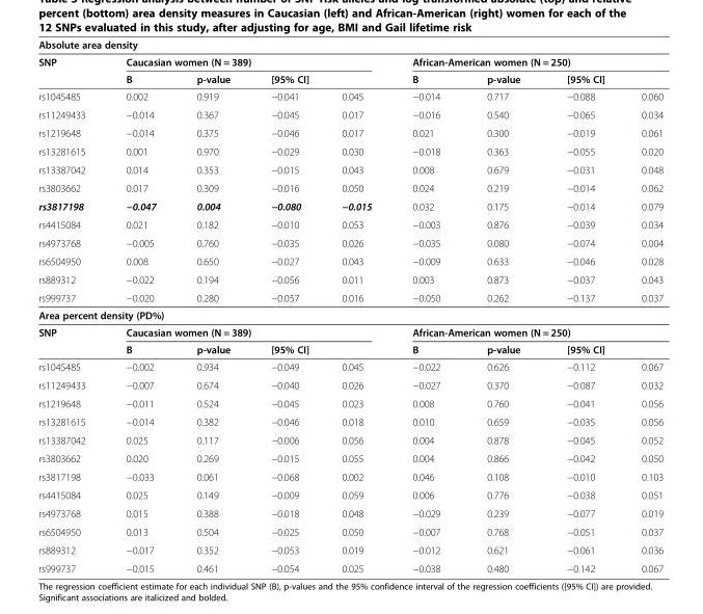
<table><thead><tr><td colspan="9">Absolute area density</td></tr><tr><td rowspan="3">SNP rs1045485</td><td colspan="4">Caucasian women (N = 389)</td><td colspan="4">African-American women (N = 250)</td></tr><tr><td rowspan="2">B 0.002</td><td rowspan="2">p-value 0.919</td><td colspan="2">[95% CI]</td><td rowspan="2">B −0.014</td><td rowspan="2">p-value 0.717</td><td colspan="2">[95% CI]</td></tr><tr><td>−0.041</td><td>0.045</td><td>−0.088</td><td>0.060</td></tr></thead><tbody><tr><td>rs11249433</td><td>−0.014</td><td>0.367</td><td>−0.045</td><td>0.017</td><td>−0.016</td><td>0.540</td><td>−0.065</td><td>0.034</td></tr><tr><td>rs1219648</td><td>−0.014</td><td>0.375</td><td>−0.046</td><td>0.017</td><td>0.021</td><td>0.300</td><td>−0.019</td><td>0.061</td></tr><tr><td>rs13281615</td><td>0.001</td><td>0.970</td><td>−0.029</td><td>0.030</td><td>−0.018</td><td>0.363</td><td>−0.055</td><td>0.020</td></tr><tr><td>rs13387042</td><td>0.014</td><td>0.353</td><td>−0.015</td><td>0.043</td><td>0.008</td><td>0.679</td><td>−0.031</td><td>0.048</td></tr><tr><td>rs3803662</td><td>0.017</td><td>0.309</td><td>−0.016</td><td>0.050</td><td>0.024</td><td>0.219</td><td>−0.014</td><td>0.062</td></tr><tr><td>rs3817198</td><td>−0.047</td><td>0.004</td><td>−0.080</td><td>−0.015</td><td>0.032</td><td>0.175</td><td>−0.014</td><td>0.079</td></tr><tr><td>rs4415084</td><td>0.021</td><td>0.182</td><td>−0.010</td><td>0.053</td><td>−0.003</td><td>0.876</td><td>−0.039</td><td>0.034</td></tr><tr><td>rs4973768</td><td>−0.005</td><td>0.760</td><td>−0.035</td><td>0.026</td><td>−0.035</td><td>0.080</td><td>−0.074</td><td>0.004</td></tr><tr><td>rs6504950</td><td>0.008</td><td>0.650</td><td>−0.027</td><td>0.043</td><td>−0.009</td><td>0.633</td><td>−0.046</td><td>0.028</td></tr><tr><td>rs889312</td><td>−0.022</td><td>0.194</td><td>−0.056</td><td>0.011</td><td>0.003</td><td>0.873</td><td>−0.037</td><td>0.043</td></tr><tr><td>rs999737</td><td>−0.020</td><td>0.280</td><td>−0.057</td><td>0.016</td><td>−0.050</td><td>0.262</td><td>−0.137</td><td>0.037</td></tr><tr><td colspan="9">Area percent density (PD%)</td></tr><tr><td rowspan="2">SNP</td><td colspan="4">Caucasian women (N = 389)</td><td colspan="4">African-American women (N = 250)</td></tr><tr><td>B</td><td>p-value</td><td colspan="2">[95% CI]</td><td>B</td><td>p-value</td><td colspan="2">[95% CI]</td></tr><tr><td>rs1045485</td><td>−0.002</td><td>0.934</td><td>−0.049</td><td>0.045</td><td>−0.022</td><td>0.626</td><td>−0.112</td><td>0.067</td></tr><tr><td>rs11249433</td><td>−0.007</td><td>0.674</td><td>−0.040</td><td>0.026</td><td>−0.027</td><td>0.370</td><td>−0.087</td><td>0.032</td></tr><tr><td>rs1219648</td><td>−0.011</td><td>0.524</td><td>−0.045</td><td>0.023</td><td>0.008</td><td>0.760</td><td>−0.041</td><td>0.056</td></tr><tr><td>rs13281615</td><td>−0.014</td><td>0.382</td><td>−0.046</td><td>0.018</td><td>0.010</td><td>0.659</td><td>−0.035</td><td>0.056</td></tr><tr><td>rs13387042</td><td>0.025</td><td>0.117</td><td>−0.006</td><td>0.056</td><td>0.004</td><td>0.878</td><td>−0.045</td><td>0.052</td></tr><tr><td>rs3803662</td><td>0.020</td><td>0.269</td><td>−0.015</td><td>0.055</td><td>0.004</td><td>0.866</td><td>−0.042</td><td>0.050</td></tr><tr><td>rs3817198</td><td>−0.033</td><td>0.061</td><td>−0.068</td><td>0.002</td><td>0.046</td><td>0.108</td><td>−0.010</td><td>0.103</td></tr><tr><td>rs4415084</td><td>0.025</td><td>0.149</td><td>−0.009</td><td>0.059</td><td>0.006</td><td>0.776</td><td>−0.038</td><td>0.051</td></tr><tr><td>rs4973768</td><td>0.015</td><td>0.388</td><td>−0.018</td><td>0.048</td><td>−0.029</td><td>0.239</td><td>−0.077</td><td>0.019</td></tr><tr><td>rs6504950</td><td>0.013</td><td>0.504</td><td>−0.025</td><td>0.050</td><td>−0.007</td><td>0.768</td><td>−0.051</td><td>0.037</td></tr><tr><td>rs889312</td><td>−0.017</td><td>0.352</td><td>−0.053</td><td>0.019</td><td>−0.012</td><td>0.621</td><td>−0.061</td><td>0.036</td></tr><tr><td>rs999737</td><td>−0.015</td><td>0.461</td><td>−0.054</td><td>0.025</td><td>−0.038</td><td>0.480</td><td>−0.142</td><td>0.067</td></tr></tbody></table>